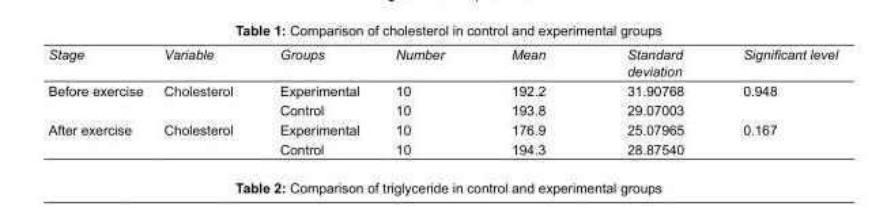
<table><tbody><tr><td>Stage</td><td>Variable</td><td>Groups</td><td>Number</td><td>Mean</td><td>Standard deviation</td><td>Significant level</td></tr><tr><td rowspan="2">Before exercise</td><td>Cholesterol</td><td>Experimental</td><td>10</td><td>192.2</td><td>31.90768</td><td>0.948</td></tr><tr><td></td><td>Control</td><td>10</td><td>193.8</td><td>29.07003</td><td></td></tr><tr><td rowspan="2">After exercise</td><td>Cholesterol</td><td>Experimental</td><td>10</td><td>176.9</td><td>25.07965</td><td>0.167</td></tr><tr><td></td><td>Control</td><td>10</td><td>194.3</td><td>28.87540</td><td></td></tr></tbody></table>